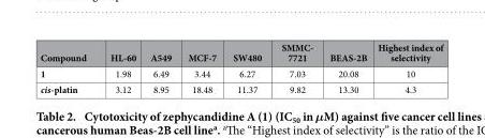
<table><thead><tr><td>Compound</td><td>HL-60</td><td>A549</td><td>MCF-7</td><td>SW480</td><td>SMMC- 7721</td><td>BEAS-2B</td><td>Highest index of selectivity</td></tr></thead><tbody><tr><td>1</td><td>1.98</td><td>6.49</td><td>3.44</td><td>6.27</td><td>7.03</td><td>20.08</td><td>10</td></tr><tr><td>cis-platin</td><td>3.12</td><td>8.95</td><td>18.48</td><td>11.37</td><td>9.82</td><td>13.30</td><td>4.3</td></tr></tbody></table>